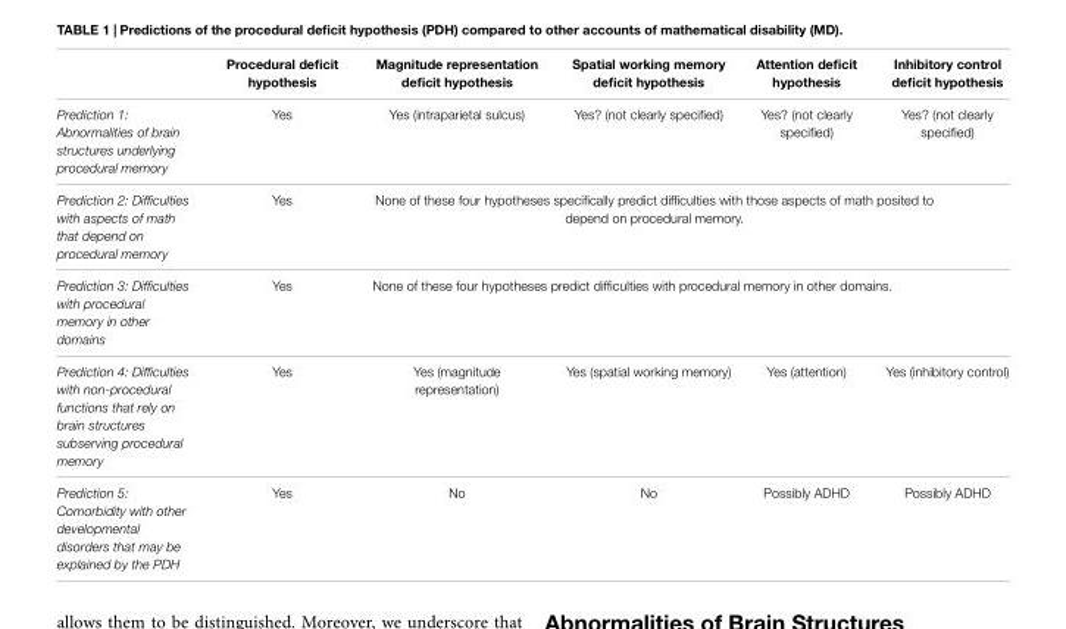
<table><thead><tr><td></td><td>Procedural deficit hypothesis</td><td>Magnitude representation deficit hypothesis</td><td>Spatial working memory deficit hypothesis</td><td>Attention deficit hypothesis</td><td>Inhibitory control deficit hypothesis</td></tr></thead><tbody><tr><td>Prediction 1: Abnormalities of brain structures underlying procedural memory</td><td>Yes</td><td>Yes (intraparietal sulcus)</td><td>Yes? (not clearly specified)</td><td>Yes? (not clearly specified)</td><td>Yes? (not clearly specified)</td></tr><tr><td>Prediction 2: Difficulties with aspects of math that depend on procedural memory</td><td>Yes</td><td colspan="4">None of these four hypotheses specifically predict difficulties with those aspects of math posited to depend on procedural memory.</td></tr><tr><td>Prediction 3: Difficulties with procedural memory in other domains</td><td>Yes</td><td colspan="4">None of these four hypotheses predict difficulties with procedural memory in other domains.</td></tr><tr><td>Prediction 4: Difficulties with non-procedural functions that rely on brain structures subserving procedural memory</td><td>Yes</td><td>Yes (magnitude representation)</td><td>Yes (spatial working memory)</td><td>Yes (attention)</td><td>Yes (inhibitory control)</td></tr><tr><td>Prediction 5: Comorbidity with other developmental disorders that may be explained by the PDH</td><td>Yes</td><td>No</td><td>No</td><td>Possibly ADHD</td><td>Possibly ADHD</td></tr></tbody></table>